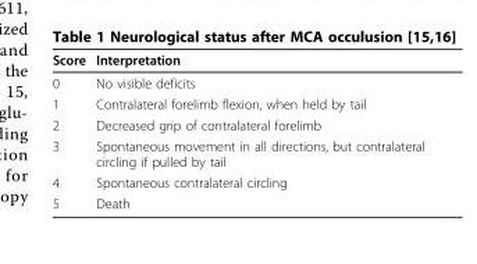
<table><thead><tr><td>Score</td><td>Interpretation</td></tr></thead><tbody><tr><td>0</td><td>No visible deficits</td></tr><tr><td>1</td><td>Contralateral forelimb flexion, when held by tail</td></tr><tr><td>2</td><td>Decreased grip of contralateral forelimb</td></tr><tr><td>3</td><td>Spontaneous movement in all directions, but contralateral circling if pulled by tail</td></tr><tr><td>4</td><td>Spontaneous contralateral circling</td></tr><tr><td>5</td><td>Death</td></tr></tbody></table>